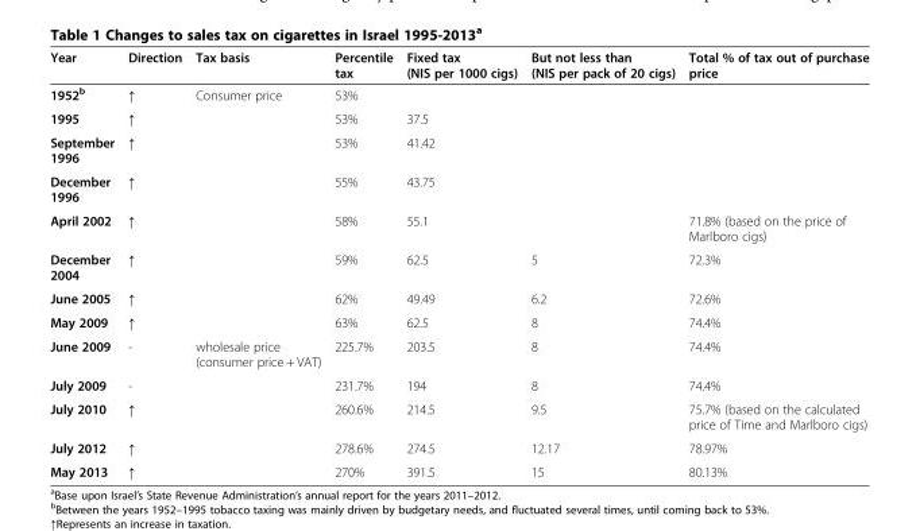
<table><thead><tr><td>Year</td><td>Direction</td><td>Tax basis</td><td>Percentile tax</td><td>Fixed tax (NIS per 1000 cigs)</td><td>But not less than (NIS per pack of 20 cigs)</td><td>Total % of tax out of purchase price</td></tr></thead><tbody><tr><td>1952<sup>b</sup></td><td>↑</td><td>Consumer price</td><td>53%</td><td></td><td></td><td></td></tr><tr><td>1995</td><td>↑</td><td></td><td>53%</td><td>37.5</td><td></td><td></td></tr><tr><td>September 1996</td><td>↑</td><td></td><td>53%</td><td>41.42</td><td></td><td></td></tr><tr><td>December 1996</td><td>↑</td><td></td><td>55%</td><td>43.75</td><td></td><td></td></tr><tr><td>April 2002</td><td>↑</td><td></td><td>58%</td><td>55.1</td><td></td><td>71.8% (based on the price of Marlboro cigs)</td></tr><tr><td>December 2004</td><td>↑</td><td></td><td>59%</td><td>62.5</td><td>5</td><td>72.3%</td></tr><tr><td>June 2005</td><td>↑</td><td></td><td>62%</td><td>49.49</td><td>6.2</td><td>72.6%</td></tr><tr><td>May 2009</td><td>↑</td><td></td><td>63%</td><td>62.5</td><td>8</td><td>74.4%</td></tr><tr><td>June 2009</td><td>-</td><td>wholesale price (consumer price + VAT)</td><td>225.7%</td><td>203.5</td><td>8</td><td>74.4%</td></tr><tr><td>July 2009</td><td>-</td><td></td><td>231.7%</td><td>194</td><td>8</td><td>74.4%</td></tr><tr><td>July 2010</td><td>↑</td><td></td><td>260.6%</td><td>214.5</td><td>9.5</td><td>75.7% (based on the calculated price of Time and Marlboro cigs)</td></tr><tr><td>July 2012</td><td>↑</td><td></td><td>278.6%</td><td>274.5</td><td>12.17</td><td>78.97%</td></tr><tr><td>May 2013</td><td>↑</td><td></td><td>270%</td><td>391.5</td><td>15</td><td>80.13%</td></tr></tbody></table>